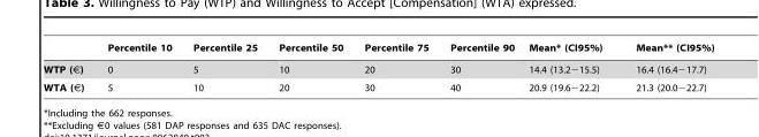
<table><thead><tr><td></td><td>Percentile 10</td><td>Percentile 25</td><td>Percentile 50</td><td>Percentile 75</td><td>Percentile 90</td><td>Mean* (CI95%)</td><td>Mean** (CI95%)</td></tr></thead><tbody><tr><td>WTP (€)</td><td>0</td><td>5</td><td>10</td><td>20</td><td>30</td><td>14.4 (13.2−15.5)</td><td>16.4 (16.4−17.7)</td></tr><tr><td>WTA (€)</td><td>5</td><td>10</td><td>20</td><td>30</td><td>40</td><td>20.9 (19.6−22.2)</td><td>21.3 (20.0−22.7)</td></tr></tbody></table>